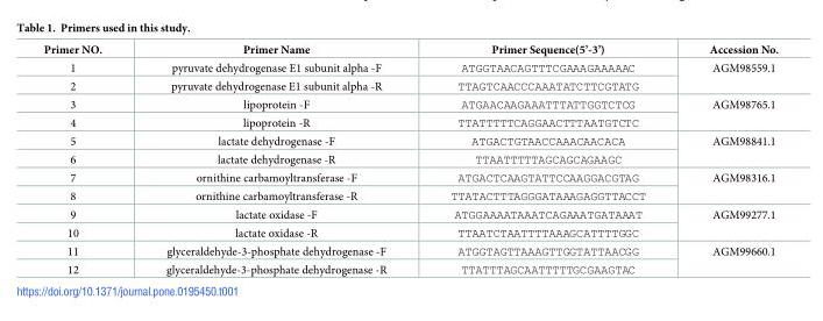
<table><thead><tr><td>Primer NO.</td><td>Primer Name</td><td>Primer Sequence(5’-3’)</td><td>Accession No.</td></tr></thead><tbody><tr><td>1</td><td>pyruvate dehydrogenase E1 subunit alpha -F</td><td>ATGGTAACAGTTTCGAAAGAAAAAC</td><td rowspan="2">AGM98559.1</td></tr><tr><td>2</td><td>pyruvate dehydrogenase E1 subunit alpha -R</td><td>TTAGTCAACCCAAATATCTTCGTATG</td></tr><tr><td>3</td><td>lipoprotein -F</td><td>ATGAACAAGAAATTTATTGGTCTCG</td><td rowspan="2">AGM98765.1</td></tr><tr><td>4</td><td>lipoprotein -R</td><td>TTATTTTTCAGGAACTTTAATGTCTC</td></tr><tr><td>5</td><td>lactate dehydrogenase -F</td><td>ATGACTGTAACCAAACAACACA</td><td rowspan="2">AGM98841.1</td></tr><tr><td>6</td><td>lactate dehydrogenase -R</td><td>TTAATTTTTAGCAGCAGAAGC</td></tr><tr><td>7</td><td>ornithine carbamoyltransferase -F</td><td>ATGACTCAAGTATTCCAAGGACGTAG</td><td rowspan="2">AGM98316.1</td></tr><tr><td>8</td><td>ornithine carbamoyltransferase -R</td><td>TTATACTTTAGGGATAAAGAGGTTACCT</td></tr><tr><td>9</td><td>lactate oxidase -F</td><td>ATGGAAAATAAATCAGAAATGATAAAT</td><td rowspan="2">AGM99277.1</td></tr><tr><td>10</td><td>lactate oxidase -R</td><td>TTAATCTAATTTTAAAGCATTTTGGC</td></tr><tr><td>11</td><td>glyceraldehyde-3-phosphate dehydrogenase -F</td><td>ATGGTAGTTAAAGTTGGTATTAACGG</td><td rowspan="2">AGM99660.1</td></tr><tr><td>12</td><td>glyceraldehyde-3-phosphate dehydrogenase -R</td><td>TTATTTAGCAATTTTTGCGAAGTAC</td></tr></tbody></table>